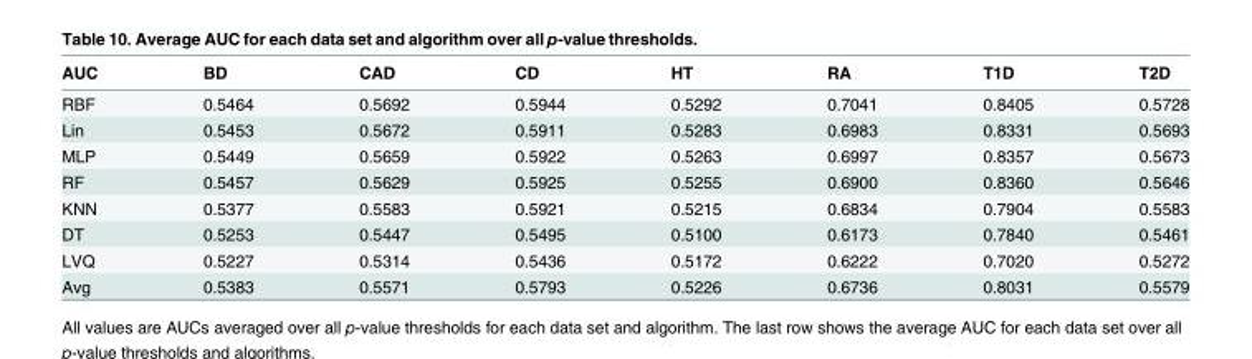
<table><thead><tr><td>AUC</td><td>BD</td><td>CAD</td><td>CD</td><td>HT</td><td>RA</td><td>T1D</td><td>T2D</td></tr></thead><tbody><tr><td>RBF</td><td>0.5464</td><td>0.5692</td><td>0.5944</td><td>0.5292</td><td>0.7041</td><td>0.8405</td><td>0.5728</td></tr><tr><td>Lin</td><td>0.5453</td><td>0.5672</td><td>0.5911</td><td>0.5283</td><td>0.6983</td><td>0.8331</td><td>0.5693</td></tr><tr><td>MLP</td><td>0.5449</td><td>0.5659</td><td>0.5922</td><td>0.5263</td><td>0.6997</td><td>0.8357</td><td>0.5673</td></tr><tr><td>RF</td><td>0.5457</td><td>0.5629</td><td>0.5925</td><td>0.5255</td><td>0.6900</td><td>0.8360</td><td>0.5646</td></tr><tr><td>KNN</td><td>0.5377</td><td>0.5583</td><td>0.5921</td><td>0.5215</td><td>0.6834</td><td>0.7904</td><td>0.5583</td></tr><tr><td>DT</td><td>0.5253</td><td>0.5447</td><td>0.5495</td><td>0.5100</td><td>0.6173</td><td>0.7840</td><td>0.5461</td></tr><tr><td>LVQ</td><td>0.5227</td><td>0.5314</td><td>0.5436</td><td>0.5172</td><td>0.6222</td><td>0.7020</td><td>0.5272</td></tr><tr><td>Avg</td><td>0.5383</td><td>0.5571</td><td>0.5793</td><td>0.5226</td><td>0.6736</td><td>0.8031</td><td>0.5579</td></tr></tbody></table>